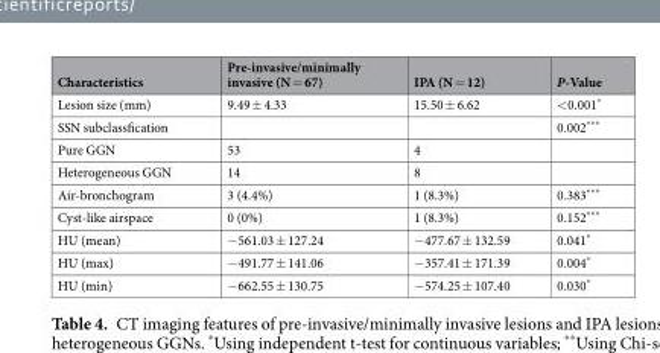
<table><thead><tr><td>Characteristics</td><td>Pre-invasive/minimally invasive (N = 67)</td><td>IPA (N = 12)</td><td>P-Value</td></tr></thead><tbody><tr><td>Lesion size (mm)</td><td>9.49 ± 4.33</td><td>15.50 ± 6.62</td><td>&lt;0.001*</td></tr><tr><td>SSN subclassfication</td><td></td><td></td><td>0.002***</td></tr><tr><td>Pure GGN</td><td>53</td><td>4</td><td></td></tr><tr><td>Heterogeneous GGN</td><td>14</td><td>8</td><td></td></tr><tr><td>Air-bronchogram</td><td>3 (4.4%)</td><td>1 (8.3%)</td><td>0.383***</td></tr><tr><td>Cyst-like airspace</td><td>0 (0%)</td><td>1 (8.3%)</td><td>0.152***</td></tr><tr><td>HU (mean)</td><td>−561.03 ± 127.24</td><td>−477.67 ± 132.59</td><td>0.041*</td></tr><tr><td>HU (max)</td><td>−491.77 ± 141.06</td><td>−357.41 ± 171.39</td><td>0.004*</td></tr><tr><td>HU (min)</td><td>−662.55 ± 130.75</td><td>−574.25 ± 107.40</td><td>0.030*</td></tr></tbody></table>